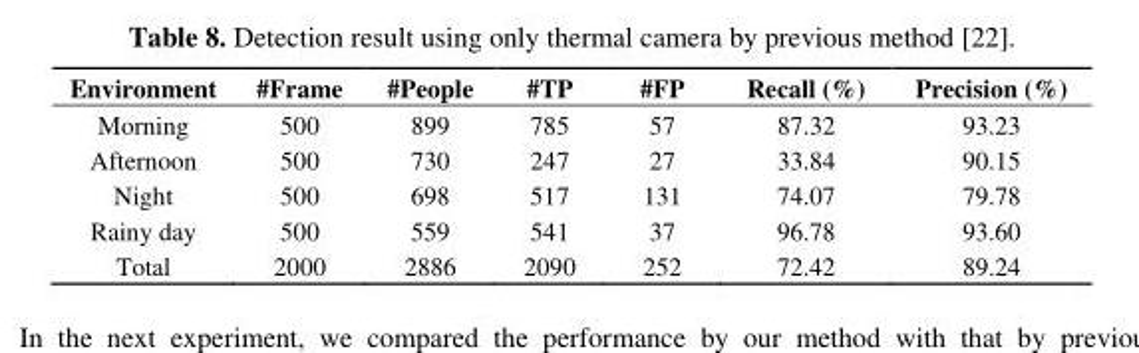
<table><thead><tr><td>Environment</td><td>#Frame</td><td>#People</td><td>#TP</td><td>#FP</td><td>Recall (%)</td><td>Precision (%)</td></tr></thead><tbody><tr><td>Morning</td><td>500</td><td>899</td><td>785</td><td>57</td><td>87.32</td><td>93.23</td></tr><tr><td>Afternoon</td><td>500</td><td>730</td><td>247</td><td>27</td><td>33.84</td><td>90.15</td></tr><tr><td>Night</td><td>500</td><td>698</td><td>517</td><td>131</td><td>74.07</td><td>79.78</td></tr><tr><td>Rainy day</td><td>500</td><td>559</td><td>541</td><td>37</td><td>96.78</td><td>93.60</td></tr><tr><td>Total</td><td>2000</td><td>2886</td><td>2090</td><td>252</td><td>72.42</td><td>89.24</td></tr></tbody></table>